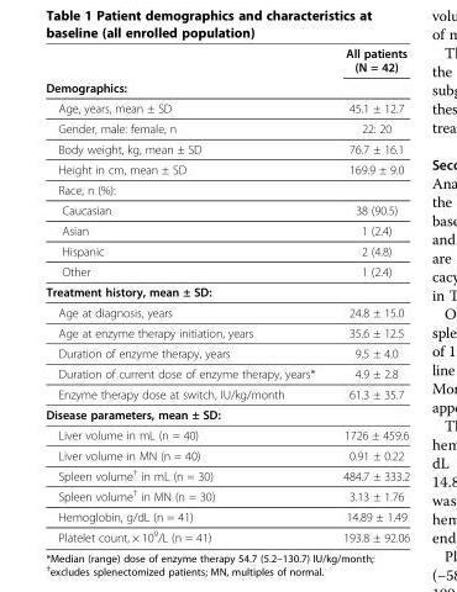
<table><thead><tr><td rowspan="2">Demographics:</td><td rowspan="2">All patients (N = 42)</td></tr><tr></tr></thead><tbody><tr><td>Age, years, mean ± SD</td><td>45.1 ± 12.7</td></tr><tr><td>Gender, male: female, n</td><td>22: 20</td></tr><tr><td>Body weight, kg, mean ± SD</td><td>76.7 ± 16.1</td></tr><tr><td>Height in cm, mean ± SD</td><td>169.9 ± 9.0</td></tr><tr><td colspan="2">Race, n (%):</td></tr><tr><td>Caucasian</td><td>38 (90.5)</td></tr><tr><td>Asian</td><td>1 (2.4)</td></tr><tr><td>Hispanic</td><td>2 (4.8)</td></tr><tr><td>Other</td><td>1 (2.4)</td></tr><tr><td colspan="2">Treatment history, mean ± SD:</td></tr><tr><td>Age at diagnosis, years</td><td>24.8 ± 15.0</td></tr><tr><td>Age at enzyme therapy initiation, years</td><td>35.6 ± 12.5</td></tr><tr><td>Duration of enzyme therapy, years</td><td>9.5 ± 4.0</td></tr><tr><td>Duration of current dose of enzyme therapy, years*</td><td>4.9 ± 2.8</td></tr><tr><td>Enzyme therapy dose at switch, IU/kg/month</td><td>61.3 ± 35.7</td></tr><tr><td colspan="2">Disease parameters, mean ± SD:</td></tr><tr><td>Liver volume in mL (n = 40)</td><td>1726 ± 459.6</td></tr><tr><td>Liver volume in MN (n = 40)</td><td>0.91 ± 0.22</td></tr><tr><td>Spleen volume<sup>†</sup> in mL (n = 30)</td><td>484.7 ± 333.2</td></tr><tr><td>Spleen volume<sup>†</sup> in MN (n = 30)</td><td>3.13 ± 1.76</td></tr><tr><td>Hemoglobin, g/dL (n = 41)</td><td>14.89 ± 1.49</td></tr><tr><td>Platelet count, × 10<sup>9</sup>/L (n = 41)</td><td>193.8 ± 92.06</td></tr></tbody></table>